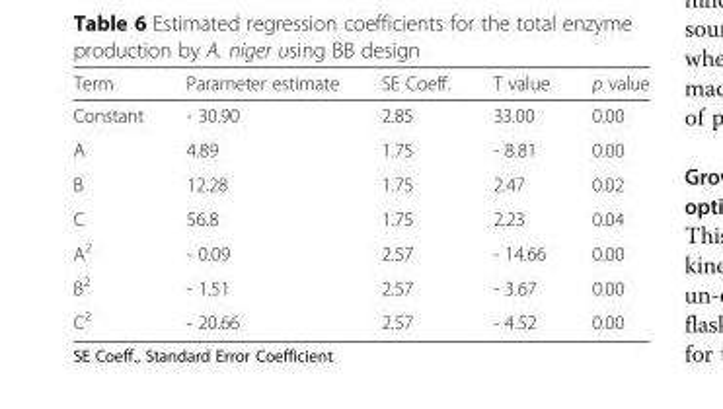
<table><thead><tr><td>Term</td><td>Parameter estimate</td><td>SE Coeff.</td><td>T value</td><td>p value</td></tr></thead><tbody><tr><td>Constant</td><td>- 30.90</td><td>2.85</td><td>33.00</td><td>0.00</td></tr><tr><td>A</td><td>4.89</td><td>1.75</td><td>- 8.81</td><td>0.00</td></tr><tr><td>B</td><td>12.28</td><td>1.75</td><td>2.47</td><td>0.02</td></tr><tr><td>C</td><td>56.8</td><td>1.75</td><td>2.23</td><td>0.04</td></tr><tr><td>A<sup>2</sup></td><td>- 0.09</td><td>2.57</td><td>- 14.66</td><td>0.00</td></tr><tr><td>B<sup>2</sup></td><td>- 1.51</td><td>2.57</td><td>- 3.67</td><td>0.00</td></tr><tr><td>C<sup>2</sup></td><td>- 20.66</td><td>2.57</td><td>- 4.52</td><td>0.00</td></tr></tbody></table>